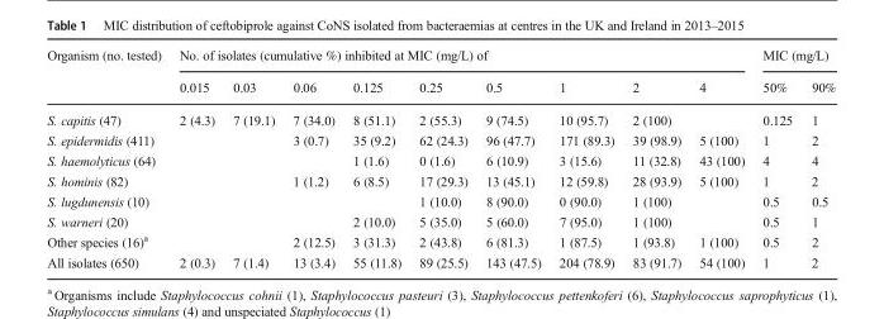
<table><thead><tr><td rowspan="2">Organism (no. tested)</td><td colspan="9">No. of isolates (cumulative %) inhibited at MIC (mg/L) of</td><td colspan="2">MIC (mg/L)</td></tr><tr><td>0.015</td><td>0.03</td><td>0.06</td><td>0.125</td><td>0.25</td><td>0.5</td><td>1</td><td>2</td><td>4</td><td>50%</td><td>90%</td></tr></thead><tbody><tr><td>S. capitis (47)</td><td>2 (4.3)</td><td>7 (19.1)</td><td>7 (34.0)</td><td>8 (51.1)</td><td>2 (55.3)</td><td>9 (74.5)</td><td>10 (95.7)</td><td>2 (100)</td><td></td><td>0.125</td><td>1</td></tr><tr><td>S. epidermidis (411)</td><td></td><td></td><td>3 (0.7)</td><td>35 (9.2)</td><td>62 (24.3)</td><td>96 (47.7)</td><td>171 (89.3)</td><td>39 (98.9)</td><td>5 (100)</td><td>1</td><td>2</td></tr><tr><td>S. haemolyticus (64)</td><td></td><td></td><td></td><td>1 (1.6)</td><td>0 (1.6)</td><td>6 (10.9)</td><td>3 (15.6)</td><td>11 (32.8)</td><td>43 (100)</td><td>4</td><td>4</td></tr><tr><td>S. hominis (82)</td><td></td><td></td><td>1 (1.2)</td><td>6 (8.5)</td><td>17 (29.3)</td><td>13 (45.1)</td><td>12 (59.8)</td><td>28 (93.9)</td><td>5 (100)</td><td>1</td><td>2</td></tr><tr><td>S. lugdunensis (10)</td><td></td><td></td><td></td><td></td><td>1 (10.0)</td><td>8 (90.0)</td><td>0 (90.0)</td><td>1 (100)</td><td></td><td>0.5</td><td>0.5</td></tr><tr><td>S. warneri (20)</td><td></td><td></td><td></td><td>2 (10.0)</td><td>5 (35.0)</td><td>5 (60.0)</td><td>7 (95.0)</td><td>1 (100)</td><td></td><td>0.5</td><td>1</td></tr><tr><td>Other species (16)<sup>a</sup></td><td></td><td></td><td>2 (12.5)</td><td>3 (31.3)</td><td>2 (43.8)</td><td>6 (81.3)</td><td>1 (87.5)</td><td>1 (93.8)</td><td>1 (100)</td><td>0.5</td><td>2</td></tr><tr><td>All isolates (650)</td><td>2 (0.3)</td><td>7 (1.4)</td><td>13 (3.4)</td><td>55 (11.8)</td><td>89 (25.5)</td><td>143 (47.5)</td><td>204 (78.9)</td><td>83 (91.7)</td><td>54 (100)</td><td>1</td><td>2</td></tr></tbody></table>